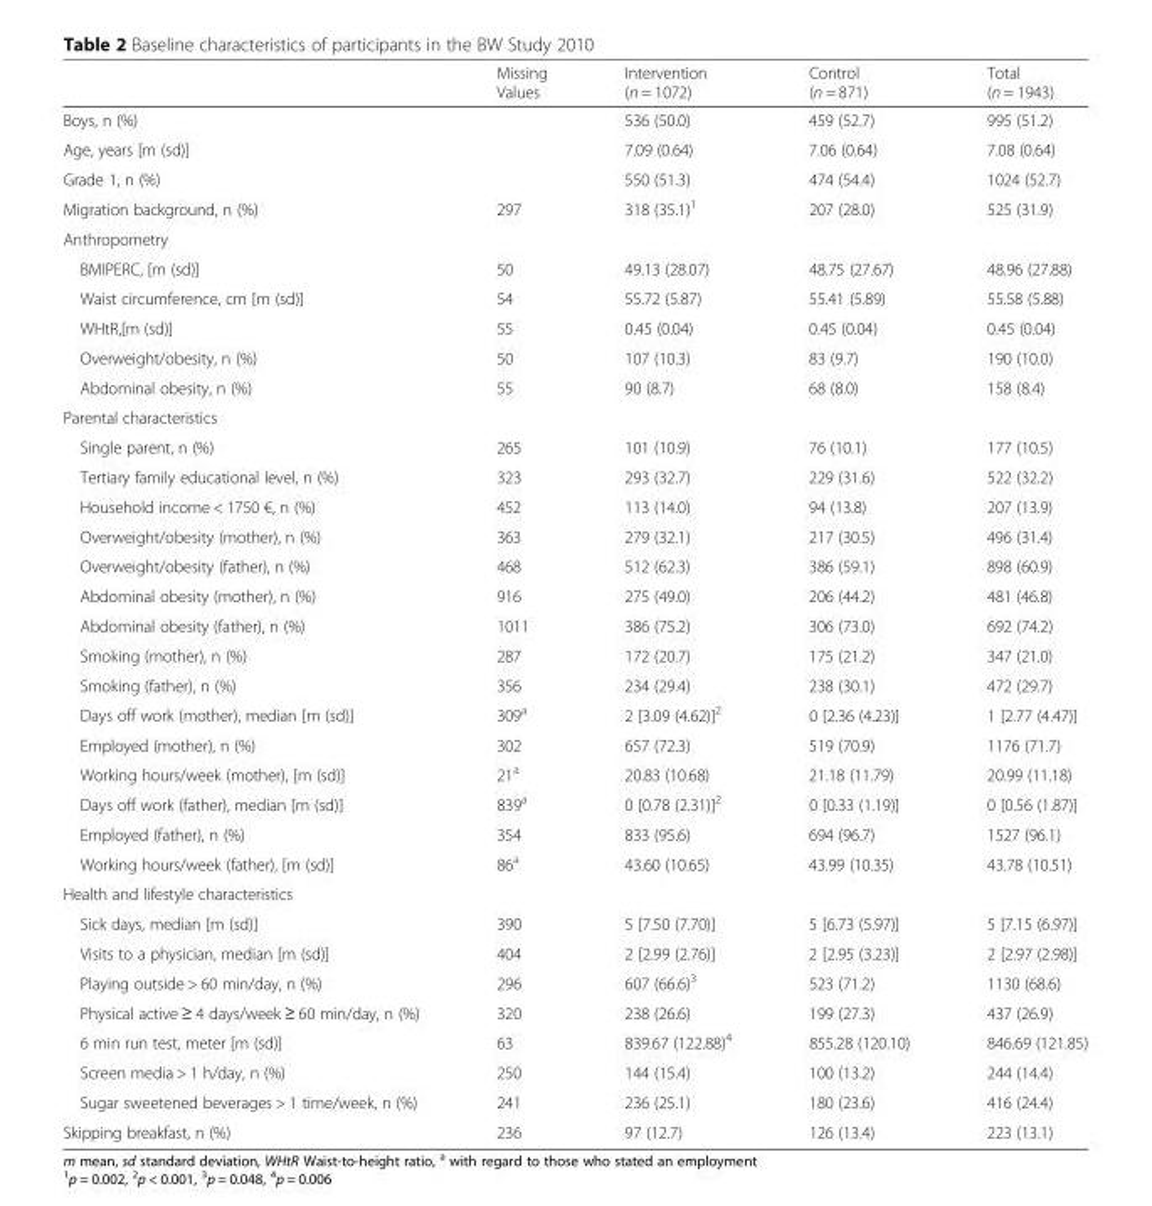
<table><thead><tr><td></td><td>Missing Values</td><td>Intervention (n = 1072)</td><td>Control (n = 871)</td><td>Total (n = 1943)</td></tr></thead><tbody><tr><td>Boys, n (%)</td><td></td><td>536 (50.0)</td><td>459 (52.7)</td><td>995 (51.2)</td></tr><tr><td>Age, years [m (sd)]</td><td></td><td>7.09 (0.64)</td><td>7.06 (0.64)</td><td>7.08 (0.64)</td></tr><tr><td>Grade 1, n (%)</td><td></td><td>550 (51.3)</td><td>474 (54.4)</td><td>1024 (52.7)</td></tr><tr><td>Migration background, n (%)</td><td>297</td><td>318 (35.1)<sup>1</sup></td><td>207 (28.0)</td><td>525 (31.9)</td></tr><tr><td colspan="5">Anthropometry</td></tr><tr><td>BMIPERC, [m (sd)]</td><td>50</td><td>49.13 (28.07)</td><td>48.75 (27.67)</td><td>48.96 (27.88)</td></tr><tr><td>Waist circumference, cm [m (sd)]</td><td>54</td><td>55.72 (5.87)</td><td>55.41 (5.89)</td><td>55.58 (5.88)</td></tr><tr><td>WHtR,[m (sd)]</td><td>55</td><td>0.45 (0.04)</td><td>0.45 (0.04)</td><td>0.45 (0.04)</td></tr><tr><td>Overweight/obesity, n (%)</td><td>50</td><td>107 (10.3)</td><td>83 (9.7)</td><td>190 (10.0)</td></tr><tr><td>Abdominal obesity, n (%)</td><td>55</td><td>90 (8.7)</td><td>68 (8.0)</td><td>158 (8.4)</td></tr><tr><td colspan="5">Parental characteristics</td></tr><tr><td>Single parent, n (%)</td><td>265</td><td>101 (10.9)</td><td>76 (10.1)</td><td>177 (10.5)</td></tr><tr><td>Tertiary family educational level, n (%)</td><td>323</td><td>293 (32.7)</td><td>229 (31.6)</td><td>522 (32.2)</td></tr><tr><td>Household income &lt; 1750 €, n (%)</td><td>452</td><td>113 (14.0)</td><td>94 (13.8)</td><td>207 (13.9)</td></tr><tr><td>Overweight/obesity (mother), n (%)</td><td>363</td><td>279 (32.1)</td><td>217 (30.5)</td><td>496 (31.4)</td></tr><tr><td>Overweight/obesity (father), n (%)</td><td>468</td><td>512 (62.3)</td><td>386 (59.1)</td><td>898 (60.9)</td></tr><tr><td>Abdominal obesity (mother), n (%)</td><td>916</td><td>275 (49.0)</td><td>206 (44.2)</td><td>481 (46.8)</td></tr><tr><td>Abdominal obesity (father), n (%)</td><td>1011</td><td>386 (75.2)</td><td>306 (73.0)</td><td>692 (74.2)</td></tr><tr><td>Smoking (mother), n (%)</td><td>287</td><td>172 (20.7)</td><td>175 (21.2)</td><td>347 (21.0)</td></tr><tr><td>Smoking (father), n (%)</td><td>356</td><td>234 (29.4)</td><td>238 (30.1)</td><td>472 (29.7)</td></tr><tr><td>Days off work (mother), median [m (sd)]</td><td>309<sup>a</sup></td><td>2 [3.09 (4.62)]<sup>2</sup></td><td>0 [2.36 (4.23)]</td><td>1 [2.77 (4.47)]</td></tr><tr><td>Employed (mother), n (%)</td><td>302</td><td>657 (72.3)</td><td>519 (70.9)</td><td>1176 (71.7)</td></tr><tr><td>Working hours/week (mother), [m (sd)]</td><td>21<sup>a</sup></td><td>20.83 (10.68)</td><td>21.18 (11.79)</td><td>20.99 (11.18)</td></tr><tr><td>Days off work (father), median [m (sd)]</td><td>839<sup>a</sup></td><td>0 [0.78 (2.31)]<sup>2</sup></td><td>0 [0.33 (1.19)]</td><td>0 [0.56 (1.87)]</td></tr><tr><td>Employed (father), n (%)</td><td>354</td><td>833 (95.6)</td><td>694 (96.7)</td><td>1527 (96.1)</td></tr><tr><td>Working hours/week (father), [m (sd)]</td><td>86<sup>a</sup></td><td>43.60 (10.65)</td><td>43.99 (10.35)</td><td>43.78 (10.51)</td></tr><tr><td colspan="5">Health and lifestyle characteristics</td></tr><tr><td>Sick days, median [m (sd)]</td><td>390</td><td>5 [7.50 (7.70)]</td><td>5 [6.73 (5.97)]</td><td>5 [7.15 (6.97)]</td></tr><tr><td>Visits to a physician, median [m (sd)]</td><td>404</td><td>2 [2.99 (2.76)]</td><td>2 [2.95 (3.23)]</td><td>2 [2.97 (2.98)]</td></tr><tr><td>Playing outside &gt; 60 min/day, n (%)</td><td>296</td><td>607 (66.6)<sup>3</sup></td><td>523 (71.2)</td><td>1130 (68.6)</td></tr><tr><td>Physical active ≥ 4 days/week ≥ 60 min/day, n (%)</td><td>320</td><td>238 (26.6)</td><td>199 (27.3)</td><td>437 (26.9)</td></tr><tr><td>6 min run test, meter [m (sd)]</td><td>63</td><td>839.67 (122.88)<sup>4</sup></td><td>855.28 (120.10)</td><td>846.69 (121.85)</td></tr><tr><td>Screen media &gt; 1 h/day, n (%)</td><td>250</td><td>144 (15.4)</td><td>100 (13.2)</td><td>244 (14.4)</td></tr><tr><td>Sugar sweetened beverages &gt; 1 time/week, n (%)</td><td>241</td><td>236 (25.1)</td><td>180 (23.6)</td><td>416 (24.4)</td></tr><tr><td>Skipping breakfast, n (%)</td><td>236</td><td>97 (12.7)</td><td>126 (13.4)</td><td>223 (13.1)</td></tr></tbody></table>